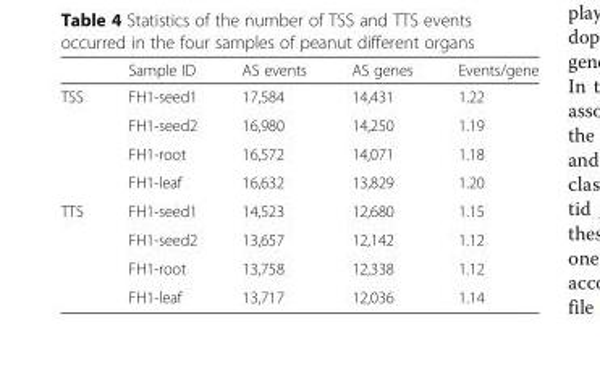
<table><thead><tr><td></td><td>Sample ID</td><td>AS events</td><td>AS genes</td><td>Events/gene</td></tr></thead><tbody><tr><td rowspan="4">TSS</td><td>FH1-seed1</td><td>17,584</td><td>14,431</td><td>1.22</td></tr><tr><td>FH1-seed2</td><td>16,980</td><td>14,250</td><td>1.19</td></tr><tr><td>FH1-root</td><td>16,572</td><td>14,071</td><td>1.18</td></tr><tr><td>FH1-leaf</td><td>16,632</td><td>13,829</td><td>1.20</td></tr><tr><td rowspan="4">TTS</td><td>FH1-seed1</td><td>14,523</td><td>12,680</td><td>1.15</td></tr><tr><td>FH1-seed2</td><td>13,657</td><td>12,142</td><td>1.12</td></tr><tr><td>FH1-root</td><td>13,758</td><td>12,338</td><td>1.12</td></tr><tr><td>FH1-leaf</td><td>13,717</td><td>12,036</td><td>1.14</td></tr></tbody></table>